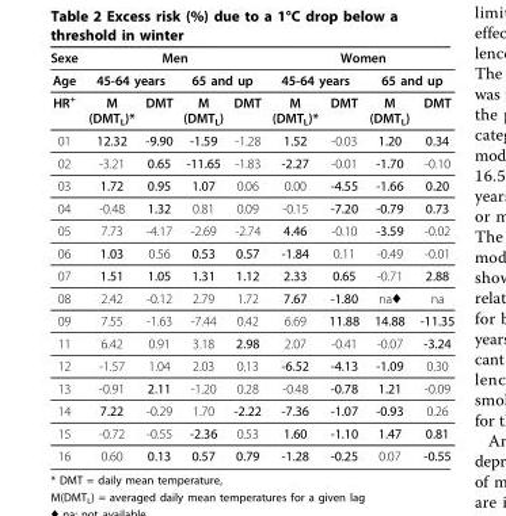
<table><thead><tr><td rowspan="3">Sexe Age HR+</td><td colspan="4">Men</td><td colspan="4">Women</td></tr><tr><td colspan="2">45-64 years</td><td colspan="2">65 and up</td><td colspan="2">45-64 years</td><td colspan="2">65 and up</td></tr><tr><td>M (DMTL)*</td><td>DMT</td><td>M (DMT<sub>L</sub>)</td><td>DMT</td><td>M (DMT<sub>L</sub>)*</td><td>DMT</td><td>M (DMT<sub>L</sub>)</td><td>DMT</td></tr></thead><tbody><tr><td>01</td><td>12.32</td><td>-9.90</td><td>-1.59</td><td>-1.28</td><td>1.52</td><td>-0.03</td><td>1.20</td><td>0.34</td></tr><tr><td>02</td><td>-3.21</td><td>0.65</td><td>-11.65</td><td>-1.83</td><td>-2.27</td><td>-0.01</td><td>-1.70</td><td>-0.10</td></tr><tr><td>03</td><td>1.72</td><td>0.95</td><td>1.07</td><td>0.06</td><td>0.00</td><td>-4.55</td><td>-1.66</td><td>0.20</td></tr><tr><td>04</td><td>-0.48</td><td>1.32</td><td>0.81</td><td>0.09</td><td>-0.15</td><td>-7.20</td><td>-0.79</td><td>0.73</td></tr><tr><td>05</td><td>7.73</td><td>-4.17</td><td>-2.69</td><td>-2.74</td><td>4.46</td><td>-0.10</td><td>-3.59</td><td>-0.02</td></tr><tr><td>06</td><td>1.03</td><td>0.56</td><td>0.53</td><td>0.57</td><td>-1.84</td><td>0.11</td><td>-0.49</td><td>-0.01</td></tr><tr><td>07</td><td>1.51</td><td>1.05</td><td>1.31</td><td>1.12</td><td>2.33</td><td>0.65</td><td>-0.71</td><td>2.88</td></tr><tr><td>08</td><td>2.42</td><td>-0.12</td><td>2.79</td><td>1.72</td><td>7.67</td><td>-1.80</td><td>na♦</td><td>na</td></tr><tr><td>09</td><td>7.55</td><td>-1.63</td><td>-7.44</td><td>0.42</td><td>6.69</td><td>11.88</td><td>14.88</td><td>-11.35</td></tr><tr><td>11</td><td>6.42</td><td>0.91</td><td>3.18</td><td>2.98</td><td>2.07</td><td>-0.41</td><td>-0.07</td><td>-3.24</td></tr><tr><td>12</td><td>-1.57</td><td>1.04</td><td>2.03</td><td>0.13</td><td>-6.52</td><td>-4.13</td><td>-1.09</td><td>0.30</td></tr><tr><td>13</td><td>-0.91</td><td>2.11</td><td>-1.20</td><td>0.28</td><td>-0.48</td><td>-0.78</td><td>1.21</td><td>-0.09</td></tr><tr><td>14</td><td>7.22</td><td>-0.29</td><td>1.70</td><td>-2.22</td><td>-7.36</td><td>-1.07</td><td>-0.93</td><td>0.26</td></tr><tr><td>15</td><td>-0.72</td><td>-0.55</td><td>-2.36</td><td>0.53</td><td>1.60</td><td>-1.10</td><td>1.47</td><td>0.81</td></tr><tr><td>16</td><td>0.60</td><td>0.13</td><td>0.57</td><td>0.79</td><td>-1.28</td><td>-0.25</td><td>0.07</td><td>-0.55</td></tr></tbody></table>